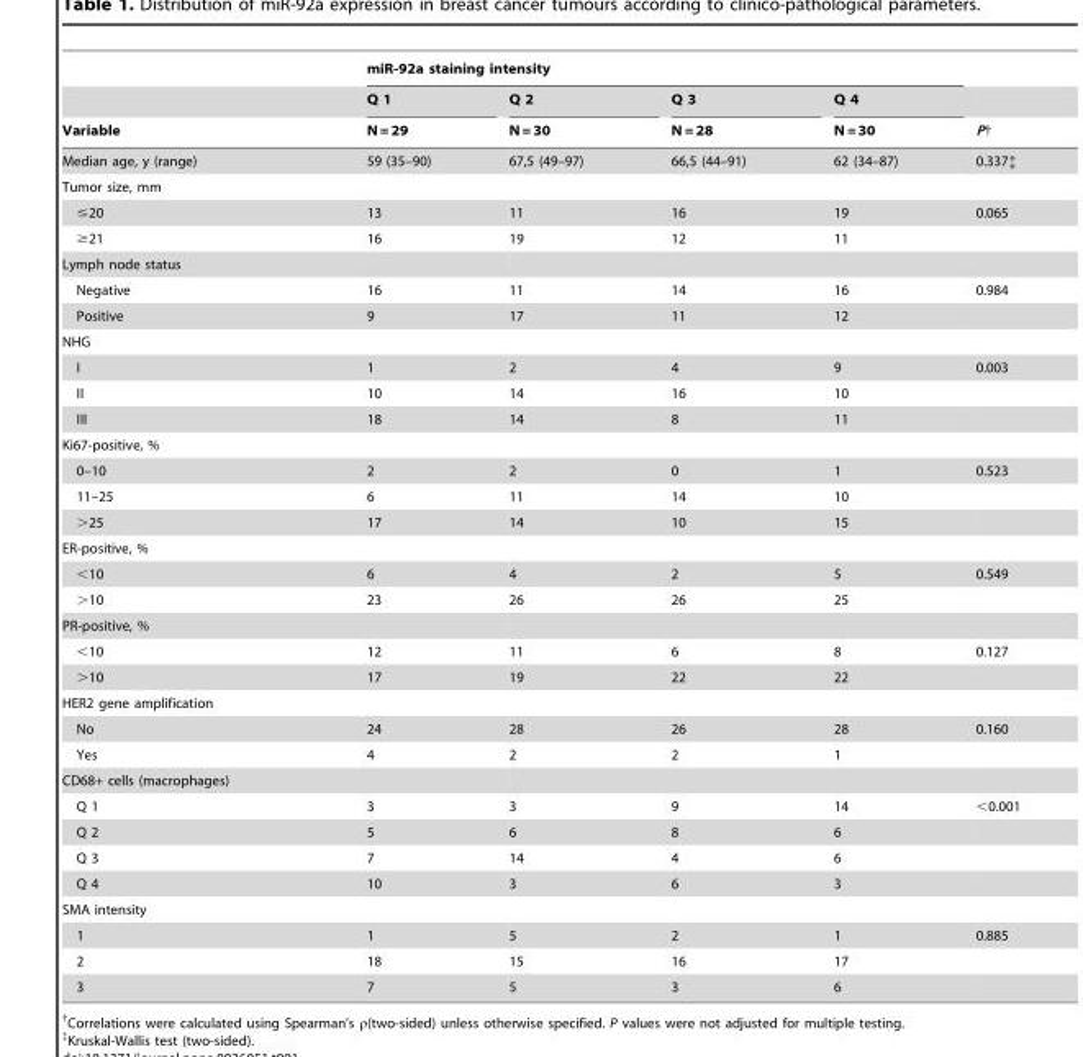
<table><thead><tr><td rowspan="3">Variable</td><td colspan="4">miR-92a staining intensity</td><td rowspan="3">P†</td></tr><tr><td rowspan="2">Q 1 N = 29</td><td rowspan="2">Q 2 N = 30</td><td rowspan="2">Q 3 N = 28</td><td rowspan="2">Q 4 N = 30</td></tr><tr></tr></thead><tbody><tr><td>Median age, y (range)</td><td>59 (35–90)</td><td>67,5 (49–97)</td><td>66,5 (44–91)</td><td>62 (34–87)</td><td>0.337‡</td></tr><tr><td colspan="6">Tumor size, mm</td></tr><tr><td>≤20</td><td>13</td><td>11</td><td>16</td><td>19</td><td>0.065</td></tr><tr><td>≥21</td><td>16</td><td>19</td><td>12</td><td>11</td><td></td></tr><tr><td colspan="6">Lymph node status</td></tr><tr><td>Negative</td><td>16</td><td>11</td><td>14</td><td>16</td><td>0.984</td></tr><tr><td>Positive</td><td>9</td><td>17</td><td>11</td><td>12</td><td></td></tr><tr><td colspan="6">NHG</td></tr><tr><td>I</td><td>1</td><td>2</td><td>4</td><td>9</td><td>0.003</td></tr><tr><td>II</td><td>10</td><td>14</td><td>16</td><td>10</td><td></td></tr><tr><td>III</td><td>18</td><td>14</td><td>8</td><td>11</td><td></td></tr><tr><td colspan="6">Ki67-positive, %</td></tr><tr><td>0–10</td><td>2</td><td>2</td><td>0</td><td>1</td><td>0.523</td></tr><tr><td>11–25</td><td>6</td><td>11</td><td>14</td><td>10</td><td></td></tr><tr><td>&gt;25</td><td>17</td><td>14</td><td>10</td><td>15</td><td></td></tr><tr><td colspan="6">ER-positive, %</td></tr><tr><td>&lt;10</td><td>6</td><td>4</td><td>2</td><td>5</td><td>0.549</td></tr><tr><td>&gt;10</td><td>23</td><td>26</td><td>26</td><td>25</td><td></td></tr><tr><td colspan="6">PR-positive, %</td></tr><tr><td>&lt;10</td><td>12</td><td>11</td><td>6</td><td>8</td><td>0.127</td></tr><tr><td>&gt;10</td><td>17</td><td>19</td><td>22</td><td>22</td><td></td></tr><tr><td colspan="6">HER2 gene amplification</td></tr><tr><td>No</td><td>24</td><td>28</td><td>26</td><td>28</td><td>0.160</td></tr><tr><td>Yes</td><td>4</td><td>2</td><td>2</td><td>1</td><td></td></tr><tr><td colspan="6">CD68+ cells (macrophages)</td></tr><tr><td>Q 1</td><td>3</td><td>3</td><td>9</td><td>14</td><td>&lt;0.001</td></tr><tr><td>Q 2</td><td>5</td><td>6</td><td>8</td><td>6</td><td></td></tr><tr><td>Q 3</td><td>7</td><td>14</td><td>4</td><td>6</td><td></td></tr><tr><td>Q 4</td><td>10</td><td>3</td><td>6</td><td>3</td><td></td></tr><tr><td colspan="6">SMA intensity</td></tr><tr><td>1</td><td>1</td><td>5</td><td>2</td><td>1</td><td>0.885</td></tr><tr><td>2</td><td>18</td><td>15</td><td>16</td><td>17</td><td></td></tr><tr><td>3</td><td>7</td><td>5</td><td>3</td><td>6</td><td></td></tr></tbody></table>